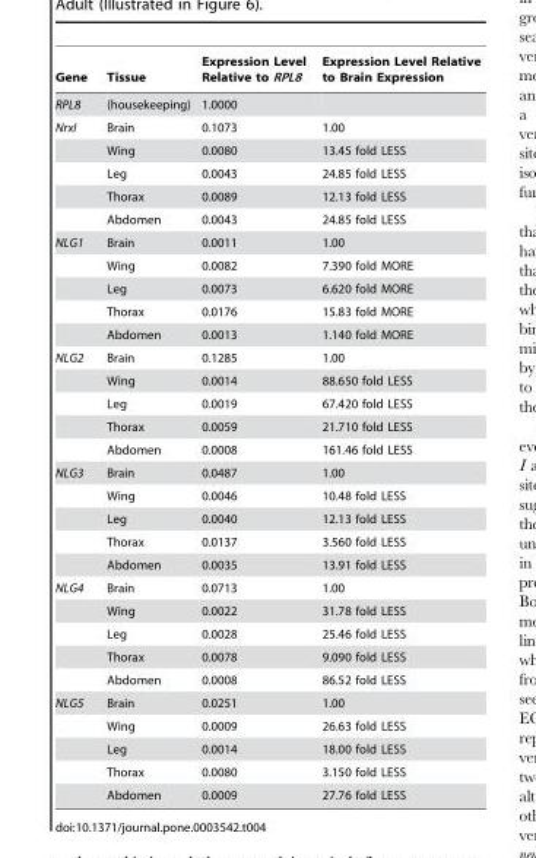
<table><thead><tr><td>Gene</td><td>Tissue</td><td>Expression Level Relative to RPL8</td><td>Expression Level Relative to Brain Expression</td></tr></thead><tbody><tr><td>RPL8</td><td>(housekeeping)</td><td>1.0000</td><td></td></tr><tr><td rowspan="5">NrxI</td><td>Brain</td><td>0.1073</td><td>1.00</td></tr><tr><td>Wing</td><td>0.0080</td><td>13.45 fold LESS</td></tr><tr><td>Leg</td><td>0.0043</td><td>24.85 fold LESS</td></tr><tr><td>Thorax</td><td>0.0089</td><td>12.13 fold LESS</td></tr><tr><td>Abdomen</td><td>0.0043</td><td>24.85 fold LESS</td></tr><tr><td rowspan="5">NLG1</td><td>Brain</td><td>0.0011</td><td>1.00</td></tr><tr><td>Wing</td><td>0.0082</td><td>7.390 fold MORE</td></tr><tr><td>Leg</td><td>0.0073</td><td>6.620 fold MORE</td></tr><tr><td>Thorax</td><td>0.0176</td><td>15.83 fold MORE</td></tr><tr><td>Abdomen</td><td>0.0013</td><td>1.140 fold MORE</td></tr><tr><td rowspan="5">NLG2</td><td>Brain</td><td>0.1285</td><td>1.00</td></tr><tr><td>Wing</td><td>0.0014</td><td>88.650 fold LESS</td></tr><tr><td>Leg</td><td>0.0019</td><td>67.420 fold LESS</td></tr><tr><td>Thorax</td><td>0.0059</td><td>21.710 fold LESS</td></tr><tr><td>Abdomen</td><td>0.0008</td><td>161.46 fold LESS</td></tr><tr><td rowspan="5">NLG3</td><td>Brain</td><td>0.0487</td><td>1.00</td></tr><tr><td>Wing</td><td>0.0046</td><td>10.48 fold LESS</td></tr><tr><td>Leg</td><td>0.0040</td><td>12.13 fold LESS</td></tr><tr><td>Thorax</td><td>0.0137</td><td>3.560 fold LESS</td></tr><tr><td>Abdomen</td><td>0.0035</td><td>13.91 fold LESS</td></tr><tr><td rowspan="5">NLG4</td><td>Brain</td><td>0.0713</td><td>1.00</td></tr><tr><td>Wing</td><td>0.0022</td><td>31.78 fold LESS</td></tr><tr><td>Leg</td><td>0.0028</td><td>25.46 fold LESS</td></tr><tr><td>Thorax</td><td>0.0078</td><td>9.090 fold LESS</td></tr><tr><td>Abdomen</td><td>0.0008</td><td>86.52 fold LESS</td></tr><tr><td rowspan="5">NLG5</td><td>Brain</td><td>0.0251</td><td>1.00</td></tr><tr><td>Wing</td><td>0.0009</td><td>26.63 fold LESS</td></tr><tr><td>Leg</td><td>0.0014</td><td>18.00 fold LESS</td></tr><tr><td>Thorax</td><td>0.0080</td><td>3.150 fold LESS</td></tr><tr><td>Abdomen</td><td>0.0009</td><td>27.76 fold LESS</td></tr></tbody></table>